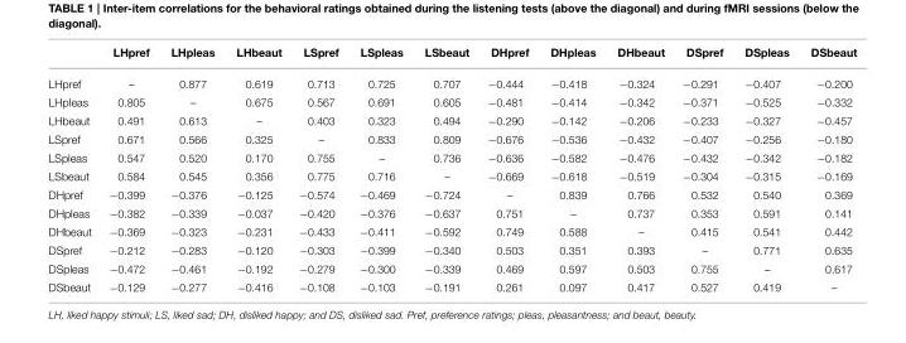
<table><thead><tr><td></td><td>LHpref</td><td>LHpleas</td><td>LHbeaut</td><td>LSpref</td><td>LSpleas</td><td>LSbeaut</td><td>DHpref</td><td>DHpleas</td><td>DHbeaut</td><td>DSpref</td><td>DSpleas</td><td>DSbeaut</td></tr></thead><tbody><tr><td>LHpref</td><td>–</td><td>0.877</td><td>0.619</td><td>0.713</td><td>0.725</td><td>0.707</td><td>−0.444</td><td>−0.418</td><td>−0.324</td><td>−0.291</td><td>−0.407</td><td>−0.200</td></tr><tr><td>LHpleas</td><td>0.805</td><td>–</td><td>0.675</td><td>0.567</td><td>0.691</td><td>0.605</td><td>−0.481</td><td>−0.414</td><td>−0.342</td><td>−0.371</td><td>−0.525</td><td>−0.332</td></tr><tr><td>LHbeaut</td><td>0.491</td><td>0.613</td><td>–</td><td>0.403</td><td>0.323</td><td>0.494</td><td>−0.290</td><td>−0.142</td><td>−0.206</td><td>−0.233</td><td>−0.327</td><td>−0.457</td></tr><tr><td>LSpref</td><td>0.671</td><td>0.566</td><td>0.325</td><td>–</td><td>0.833</td><td>0.809</td><td>−0.676</td><td>−0.536</td><td>−0.432</td><td>−0.407</td><td>−0.256</td><td>−0.180</td></tr><tr><td>LSpleas</td><td>0.547</td><td>0.520</td><td>0.170</td><td>0.755</td><td>–</td><td>0.736</td><td>−0.636</td><td>−0.582</td><td>−0.476</td><td>−0.432</td><td>−0.342</td><td>−0.182</td></tr><tr><td>LSbeaut</td><td>0.584</td><td>0.545</td><td>0.356</td><td>0.775</td><td>0.716</td><td>–</td><td>−0.669</td><td>−0.618</td><td>−0.519</td><td>−0.304</td><td>−0.315</td><td>−0.169</td></tr><tr><td>DHpref</td><td>−0.399</td><td>−0.376</td><td>−0.125</td><td>−0.574</td><td>−0.469</td><td>−0.724</td><td>–</td><td>0.839</td><td>0.766</td><td>0.532</td><td>0.540</td><td>0.369</td></tr><tr><td>DHpleas</td><td>−0.382</td><td>−0.339</td><td>−0.037</td><td>−0.420</td><td>−0.376</td><td>−0.637</td><td>0.751</td><td>–</td><td>0.737</td><td>0.353</td><td>0.591</td><td>0.141</td></tr><tr><td>DHbeaut</td><td>−0.369</td><td>−0.323</td><td>−0.231</td><td>−0.433</td><td>−0.411</td><td>−0.592</td><td>0.749</td><td>0.588</td><td>–</td><td>0.415</td><td>0.541</td><td>0.442</td></tr><tr><td>DSpref</td><td>−0.212</td><td>−0.283</td><td>−0.120</td><td>−0.303</td><td>−0.399</td><td>−0.340</td><td>0.503</td><td>0.351</td><td>0.393</td><td>–</td><td>0.771</td><td>0.635</td></tr><tr><td>DSpleas</td><td>−0.472</td><td>−0.461</td><td>−0.192</td><td>−0.279</td><td>−0.300</td><td>−0.339</td><td>0.469</td><td>0.597</td><td>0.503</td><td>0.755</td><td>–</td><td>0.617</td></tr><tr><td>DSbeaut</td><td>−0.129</td><td>−0.277</td><td>−0.416</td><td>−0.108</td><td>−0.103</td><td>−0.191</td><td>0.261</td><td>0.097</td><td>0.417</td><td>0.527</td><td>0.419</td><td>–</td></tr></tbody></table>